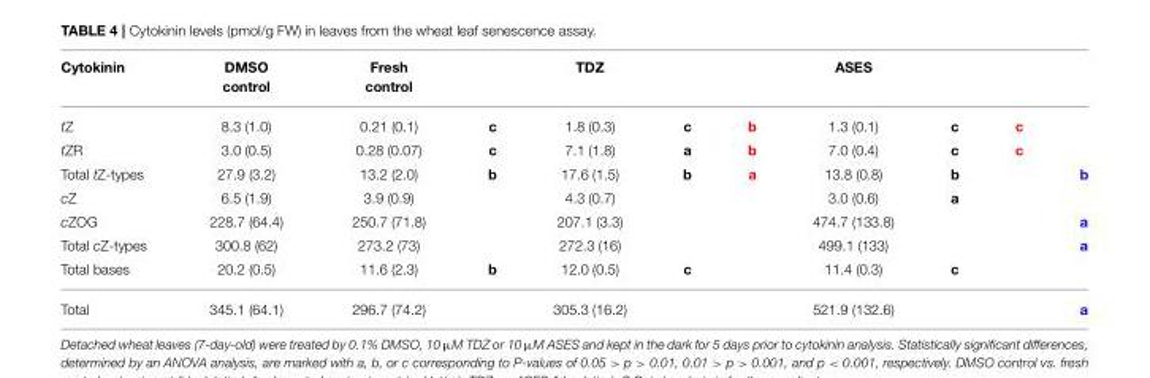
<table><thead><tr><td>Cytokinin</td><td>DMSO control</td><td>Fresh control</td><td></td><td>TDZ</td><td></td><td></td><td>ASES</td><td></td><td></td><td></td></tr></thead><tbody><tr><td>tZ</td><td>8.3 (1.0)</td><td>0.21 (0.1)</td><td>c</td><td>1.8 (0.3)</td><td>c</td><td>b</td><td>1.3 (0.1)</td><td>c</td><td>c</td><td></td></tr><tr><td>tZR</td><td>3.0 (0.5)</td><td>0.28 (0.07)</td><td>c</td><td>7.1 (1.8)</td><td>a</td><td>b</td><td>7.0 (0.4)</td><td>c</td><td>c</td><td></td></tr><tr><td>Total tZ-types</td><td>27.9 (3.2)</td><td>13.2 (2.0)</td><td>b</td><td>17.6 (1.5)</td><td>b</td><td>a</td><td>13.8 (0.8)</td><td>b</td><td></td><td>b</td></tr><tr><td>cZ</td><td>6.5 (1.9)</td><td>3.9 (0.9)</td><td></td><td>4.3 (0.7)</td><td></td><td></td><td>3.0 (0.6)</td><td>a</td><td></td><td></td></tr><tr><td>cZOG</td><td>228.7 (64.4)</td><td>250.7 (71.8)</td><td></td><td>207.1 (3.3)</td><td></td><td></td><td>474.7 (133.8)</td><td></td><td></td><td>a</td></tr><tr><td>Total cZ-types</td><td>300.8 (62)</td><td>273.2 (73)</td><td></td><td>272.3 (16)</td><td></td><td></td><td>499.1 (133)</td><td></td><td></td><td>a</td></tr><tr><td>Total bases</td><td>20.2 (0.5)</td><td>11.6 (2.3)</td><td>b</td><td>12.0 (0.5)</td><td>c</td><td></td><td>11.4 (0.3)</td><td>c</td><td></td><td></td></tr><tr><td>Total</td><td>345.1 (64.1)</td><td>296.7 (74.2)</td><td></td><td>305.3 (16.2)</td><td></td><td></td><td>521.9 (132.6)</td><td></td><td></td><td>a</td></tr></tbody></table>